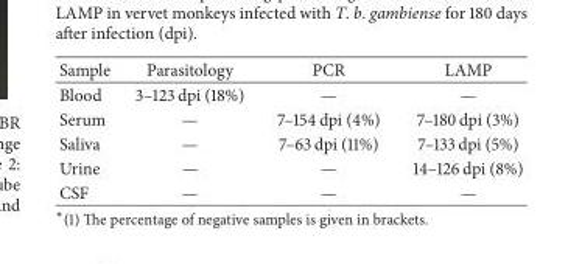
<table><thead><tr><td>Sample</td><td>Parasitology</td><td>PCR</td><td>LAMP</td></tr></thead><tbody><tr><td>Blood</td><td>3–123 dpi (18%)</td><td>—</td><td>—</td></tr><tr><td>Serum</td><td>—</td><td>7–154 dpi (4%)</td><td>7–180 dpi (3%)</td></tr><tr><td>Saliva</td><td>—</td><td>7–63 dpi (11%)</td><td>7–133 dpi (5%)</td></tr><tr><td>Urine</td><td>—</td><td>—</td><td>14–126 dpi (8%)</td></tr><tr><td>CSF</td><td>—</td><td>—</td><td>—</td></tr></tbody></table>